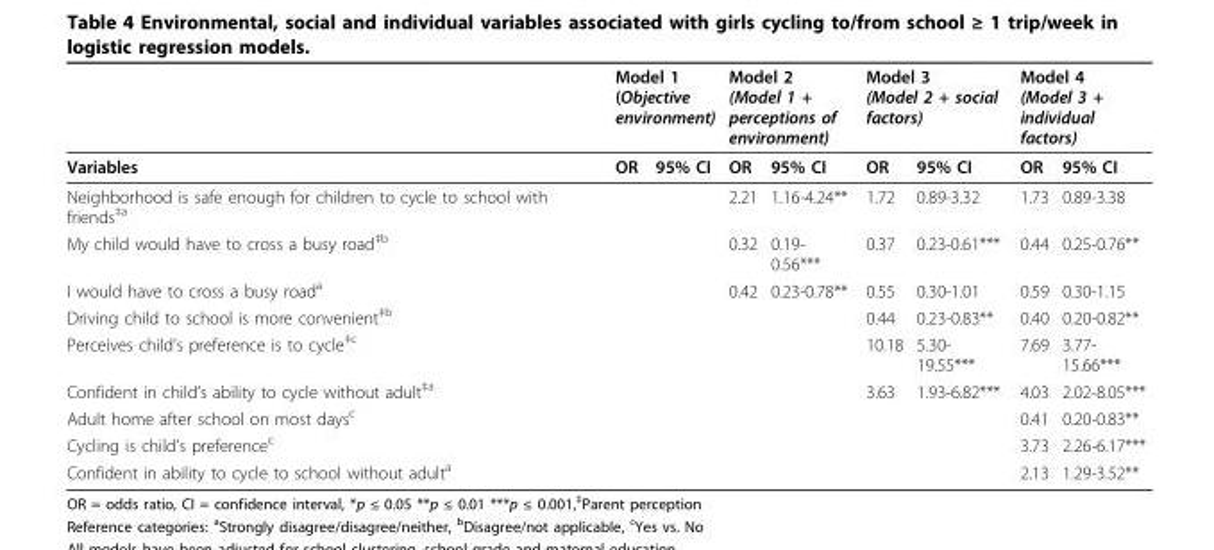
<table><thead><tr><td rowspan="2">Variables</td><td colspan="2">Model 1 (Objective environment)</td><td colspan="2">Model 2 (Model 1 + perceptions of environment)</td><td colspan="2">Model 3 (Model 2 + social factors)</td><td colspan="2">Model 4 (Model 3 + individual factors)</td></tr><tr><td>OR</td><td>95% CI</td><td>OR</td><td>95% CI</td><td>OR</td><td>95% CI</td><td>OR</td><td>95% CI</td></tr></thead><tbody><tr><td>Neighborhood is safe enough for children to cycle to school with friends<sup>‡a</sup></td><td></td><td></td><td>2.21</td><td>1.16-4.24**</td><td>1.72</td><td>0.89-3.32</td><td>1.73</td><td>0.89-3.38</td></tr><tr><td>My child would have to cross a busy road<sup>‡b</sup></td><td></td><td></td><td>0.32</td><td>0.19- 0.56***</td><td>0.37</td><td>0.23-0.61***</td><td>0.44</td><td>0.25-0.76**</td></tr><tr><td>I would have to cross a busy road<sup>a</sup></td><td></td><td></td><td>0.42</td><td>0.23-0.78**</td><td>0.55</td><td>0.30-1.01</td><td>0.59</td><td>0.30-1.15</td></tr><tr><td>Driving child to school is more convenient<sup>‡b</sup></td><td></td><td></td><td></td><td></td><td>0.44</td><td>0.23-0.83**</td><td>0.40</td><td>0.20-0.82**</td></tr><tr><td>Perceives child’s preference is to cycle<sup>‡c</sup></td><td></td><td></td><td></td><td></td><td>10.18</td><td>5.30- 19.55***</td><td>7.69</td><td>3.77- 15.66***</td></tr><tr><td>Confident in child’s ability to cycle without adult<sup>‡a</sup></td><td></td><td></td><td></td><td></td><td>3.63</td><td>1.93-6.82***</td><td>4.03</td><td>2.02-8.05***</td></tr><tr><td>Adult home after school on most days<sup>c</sup></td><td></td><td></td><td></td><td></td><td></td><td></td><td>0.41</td><td>0.20-0.83**</td></tr><tr><td>Cycling is child’s preference<sup>c</sup></td><td></td><td></td><td></td><td></td><td></td><td></td><td>3.73</td><td>2.26-6.17***</td></tr><tr><td>Confident in ability to cycle to school without adult<sup>a</sup></td><td></td><td></td><td></td><td></td><td></td><td></td><td>2.13</td><td>1.29-3.52**</td></tr></tbody></table>